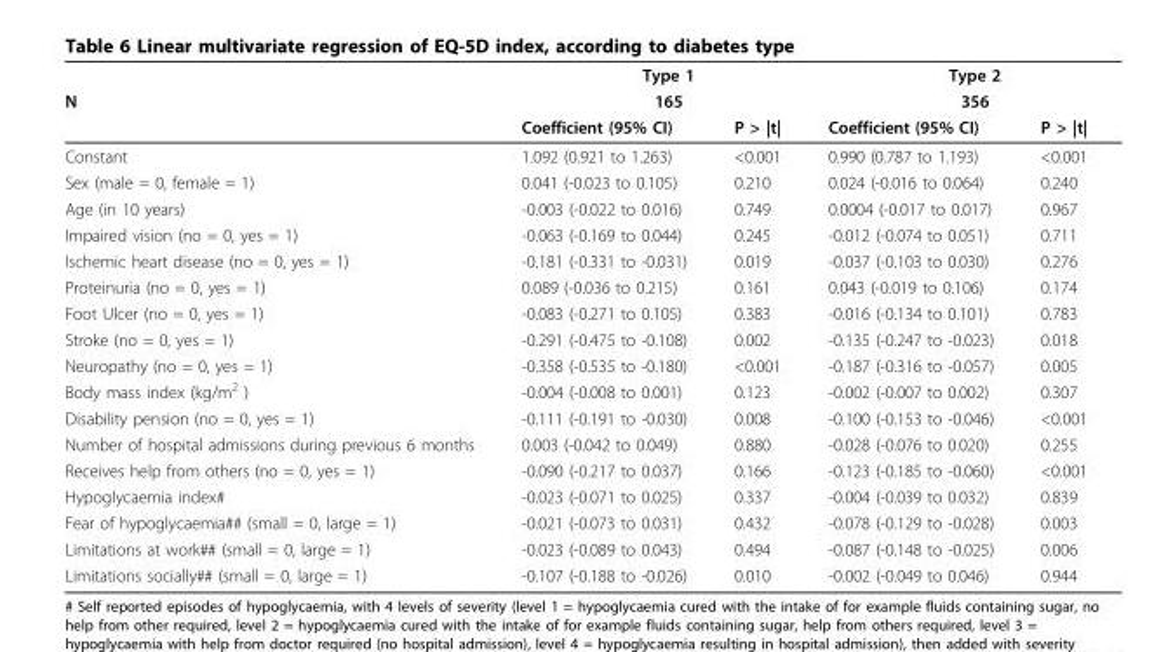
<table><thead><tr><td rowspan="3">N</td><td rowspan="2" colspan="2">Type 1 165</td><td rowspan="2" colspan="2">Type 2 356</td></tr><tr></tr><tr><td>Coefficient (95% CI)</td><td>P &gt; |t|</td><td>Coefficient (95% CI)</td><td>P &gt; |t|</td></tr></thead><tbody><tr><td>Constant</td><td>1.092 (0.921 to 1.263)</td><td>&lt;0.001</td><td>0.990 (0.787 to 1.193)</td><td>&lt;0.001</td></tr><tr><td>Sex (male = 0, female = 1)</td><td>0.041 (-0.023 to 0.105)</td><td>0.210</td><td>0.024 (-0.016 to 0.064)</td><td>0.240</td></tr><tr><td>Age (in 10 years)</td><td>-0.003 (-0.022 to 0.016)</td><td>0.749</td><td>0.0004 (-0.017 to 0.017)</td><td>0.967</td></tr><tr><td>Impaired vision (no = 0, yes = 1)</td><td>-0.063 (-0.169 to 0.044)</td><td>0.245</td><td>-0.012 (-0.074 to 0.051)</td><td>0.711</td></tr><tr><td>Ischemic heart disease (no = 0, yes = 1)</td><td>-0.181 (-0.331 to -0.031)</td><td>0.019</td><td>-0.037 (-0.103 to 0.030)</td><td>0.276</td></tr><tr><td>Proteinuria (no = 0, yes = 1)</td><td>0.089 (-0.036 to 0.215)</td><td>0.161</td><td>0.043 (-0.019 to 0.106)</td><td>0.174</td></tr><tr><td>Foot Ulcer (no = 0, yes = 1)</td><td>-0.083 (-0.271 to 0.105)</td><td>0.383</td><td>-0.016 (-0.134 to 0.101)</td><td>0.783</td></tr><tr><td>Stroke (no = 0, yes = 1)</td><td>-0.291 (-0.475 to -0.108)</td><td>0.002</td><td>-0.135 (-0.247 to -0.023)</td><td>0.018</td></tr><tr><td>Neuropathy (no = 0, yes = 1)</td><td>-0.358 (-0.535 to -0.180)</td><td>&lt;0.001</td><td>-0.187 (-0.316 to -0.057)</td><td>0.005</td></tr><tr><td>Body mass index (kg/m<sup>2</sup> )</td><td>-0.004 (-0.008 to 0.001)</td><td>0.123</td><td>-0.002 (-0.007 to 0.002)</td><td>0.307</td></tr><tr><td>Disability pension (no = 0, yes = 1)</td><td>-0.111 (-0.191 to -0.030)</td><td>0.008</td><td>-0.100 (-0.153 to -0.046)</td><td>&lt;0.001</td></tr><tr><td>Number of hospital admissions during previous 6 months</td><td>0.003 (-0.042 to 0.049)</td><td>0.880</td><td>-0.028 (-0.076 to 0.020)</td><td>0.255</td></tr><tr><td>Receives help from others (no = 0, yes = 1)</td><td>-0.090 (-0.217 to 0.037)</td><td>0.166</td><td>-0.123 (-0.185 to -0.060)</td><td>&lt;0.001</td></tr><tr><td>Hypoglycaemia index#</td><td>-0.023 (-0.071 to 0.025)</td><td>0.337</td><td>-0.004 (-0.039 to 0.032)</td><td>0.839</td></tr><tr><td>Fear of hypoglycaemia## (small = 0, large = 1)</td><td>-0.021 (-0.073 to 0.031)</td><td>0.432</td><td>-0.078 (-0.129 to -0.028)</td><td>0.003</td></tr><tr><td>Limitations at work## (small = 0, large = 1)</td><td>-0.023 (-0.089 to 0.043)</td><td>0.494</td><td>-0.087 (-0.148 to -0.025)</td><td>0.006</td></tr><tr><td>Limitations socially## (small = 0, large = 1)</td><td>-0.107 (-0.188 to -0.026)</td><td>0.010</td><td>-0.002 (-0.049 to 0.046)</td><td>0.944</td></tr></tbody></table>